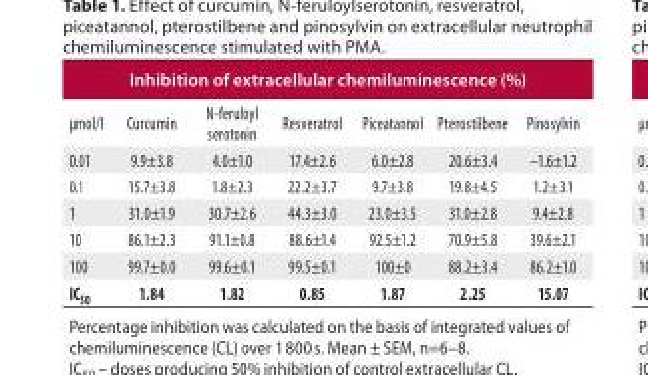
<table><thead><tr><td colspan="7">Inhibition of extracellular chemiluminescence (%)</td></tr><tr><td>μmol/l</td><td>Curcumin</td><td>N-feruloyl serotonin</td><td>Resveratrol</td><td>Piceatannol</td><td>Pterostilbene</td><td>Pinosylvin</td></tr></thead><tbody><tr><td>0.01</td><td>9.9±3.8</td><td>4.0±1.0</td><td>17.4±2.6</td><td>6.0±2.8</td><td>20.6±3.4</td><td>–1.6±1.2</td></tr><tr><td>0.1</td><td>15.7±3.8</td><td>1.8±2.3</td><td>22.2±3.7</td><td>9.7±3.8</td><td>19.8±4.5</td><td>1.2±3.1</td></tr><tr><td>1</td><td>31.0±1.9</td><td>30.7±2.6</td><td>44.3±3.0</td><td>23.0±3.5</td><td>31.0±2.8</td><td>9.4±2.8</td></tr><tr><td>10</td><td>86.1±2.3</td><td>91.1±0.8</td><td>88.6±1.4</td><td>92.5±1.2</td><td>70.9±5.8</td><td>39.6±2.1</td></tr><tr><td>100</td><td>99.7±0.0</td><td>99.6±0.1</td><td>99.5±0.1</td><td>100±0</td><td>88.2±3.4</td><td>86.2±1.0</td></tr><tr><td>IC<sub>50</sub></td><td>1.84</td><td>1.82</td><td>0.85</td><td>1.87</td><td>2.25</td><td>15.07</td></tr></tbody></table>